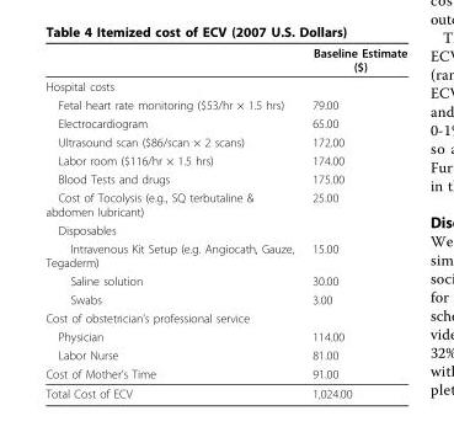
<table><thead><tr><td></td><td>Baseline Estimate ($)</td></tr></thead><tbody><tr><td colspan="2">Hospital costs</td></tr><tr><td>Fetal heart rate monitoring ($53/hr × 1.5 hrs)</td><td>79.00</td></tr><tr><td>Electrocardiogram</td><td>65.00</td></tr><tr><td>Ultrasound scan ($86/scan × 2 scans)</td><td>172.00</td></tr><tr><td>Labor room ($116/hr × 1.5 hrs)</td><td>174.00</td></tr><tr><td>Blood Tests and drugs</td><td>175.00</td></tr><tr><td>Cost of Tocolysis (e.g., SQ terbutaline &amp; abdomen lubricant)</td><td>25.00</td></tr><tr><td colspan="2">Disposables</td></tr><tr><td>Intravenous Kit Setup (e.g. Angiocath, Gauze, Tegaderm)</td><td>15.00</td></tr><tr><td>Saline solution</td><td>30.00</td></tr><tr><td>Swabs</td><td>3.00</td></tr><tr><td colspan="2">Cost of obstetrician’s professional service</td></tr><tr><td>Physician</td><td>114.00</td></tr><tr><td>Labor Nurse</td><td>81.00</td></tr><tr><td>Cost of Mother’s Time</td><td>91.00</td></tr><tr><td>Total Cost of ECV</td><td>1,024.00</td></tr></tbody></table>